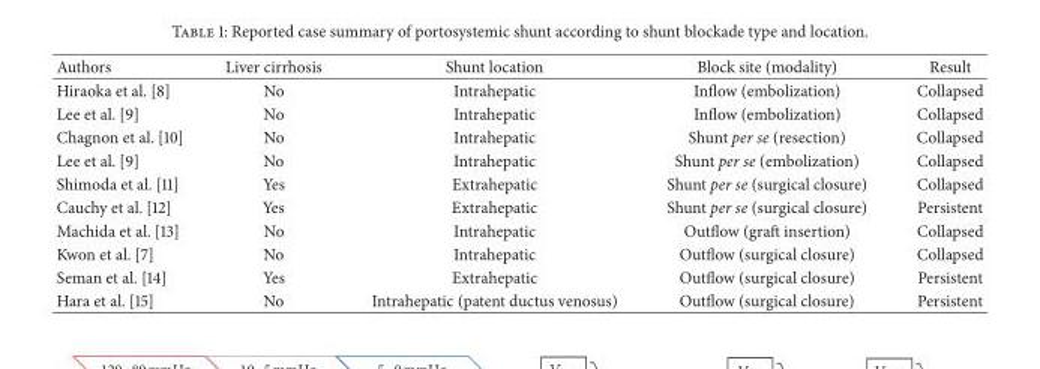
<table><thead><tr><td>Authors</td><td>Liver cirrhosis</td><td>Shunt location</td><td>Block site (modality)</td><td>Result</td></tr></thead><tbody><tr><td>Hiraoka et al. [8]</td><td>No</td><td>Intrahepatic</td><td>Inflow (embolization)</td><td>Collapsed</td></tr><tr><td>Lee et al. [9]</td><td>No</td><td>Intrahepatic</td><td>Inflow (embolization)</td><td>Collapsed</td></tr><tr><td>Chagnon et al. [10]</td><td>No</td><td>Intrahepatic</td><td>Shunt per se (resection)</td><td>Collapsed</td></tr><tr><td>Lee et al. [9]</td><td>No</td><td>Intrahepatic</td><td>Shunt per se (embolization)</td><td>Collapsed</td></tr><tr><td>Shimoda et al. [11]</td><td>Yes</td><td>Extrahepatic</td><td>Shunt per se (surgical closure)</td><td>Collapsed</td></tr><tr><td>Cauchy et al. [12]</td><td>Yes</td><td>Extrahepatic</td><td>Shunt per se (surgical closure)</td><td>Persistent</td></tr><tr><td>Machida et al. [13]</td><td>No</td><td>Intrahepatic</td><td>Outflow (graft insertion)</td><td>Collapsed</td></tr><tr><td>Kwon et al. [7]</td><td>No</td><td>Intrahepatic</td><td>Outflow (surgical closure)</td><td>Collapsed</td></tr><tr><td>Seman et al. [14]</td><td>Yes</td><td>Extrahepatic</td><td>Outflow (surgical closure)</td><td>Persistent</td></tr><tr><td>Hara et al. [15]</td><td>No</td><td>Intrahepatic (patent ductus venosus)</td><td>Outflow (surgical closure)</td><td>Persistent</td></tr></tbody></table>